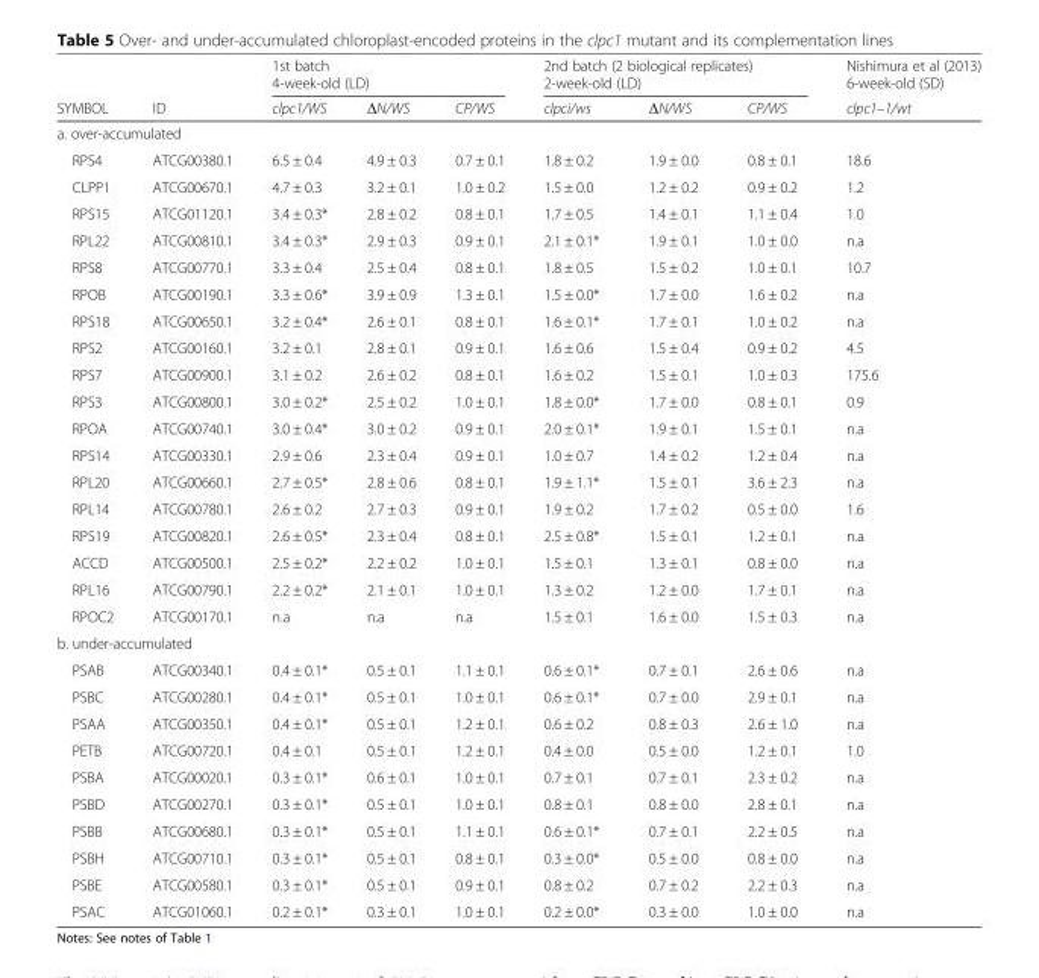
<table><thead><tr><td rowspan="2">SYMBOL</td><td rowspan="2">ID</td><td colspan="3">1st batch 4-week-old (LD)</td><td colspan="3">2nd batch (2 biological replicates) 2-week-old (LD)</td><td rowspan="2">Nishimura et al (2013) 6-week-old (SD) clpc1–1/wt</td></tr><tr><td>clpc1/WS</td><td>ΔN/WS</td><td>CP/WS</td><td>clpci/ws</td><td>ΔN/WS</td><td>CP/WS</td></tr></thead><tbody><tr><td colspan="9">a. over-accumulated</td></tr><tr><td>RPS4</td><td>ATCG00380.1</td><td>6.5 ± 0.4</td><td>4.9 ± 0.3</td><td>0.7 ± 0.1</td><td>1.8 ± 0.2</td><td>1.9 ± 0.0</td><td>0.8 ± 0.1</td><td>18.6</td></tr><tr><td>CLPP1</td><td>ATCG00670.1</td><td>4.7 ± 0.3</td><td>3.2 ± 0.1</td><td>1.0 ± 0.2</td><td>1.5 ± 0.0</td><td>1.2 ± 0.2</td><td>0.9 ± 0.2</td><td>1.2</td></tr><tr><td>RPS15</td><td>ATCG01120.1</td><td>3.4 ± 0.3*</td><td>2.8 ± 0.2</td><td>0.8 ± 0.1</td><td>1.7 ± 0.5</td><td>1.4 ± 0.1</td><td>1.1 ± 0.4</td><td>1.0</td></tr><tr><td>RPL22</td><td>ATCG00810.1</td><td>3.4 ± 0.3*</td><td>2.9 ± 0.3</td><td>0.9 ± 0.1</td><td>2.1 ± 0.1*</td><td>1.9 ± 0.1</td><td>1.0 ± 0.0</td><td>n.a</td></tr><tr><td>RPS8</td><td>ATCG00770.1</td><td>3.3 ± 0.4</td><td>2.5 ± 0.4</td><td>0.8 ± 0.1</td><td>1.8 ± 0.5</td><td>1.5 ± 0.2</td><td>1.0 ± 0.1</td><td>10.7</td></tr><tr><td>RPOB</td><td>ATCG00190.1</td><td>3.3 ± 0.6*</td><td>3.9 ± 0.9</td><td>1.3 ± 0.1</td><td>1.5 ± 0.0*</td><td>1.7 ± 0.0</td><td>1.6 ± 0.2</td><td>n.a</td></tr><tr><td>RPS18</td><td>ATCG00650.1</td><td>3.2 ± 0.4*</td><td>2.6 ± 0.1</td><td>0.8 ± 0.1</td><td>1.6 ± 0.1*</td><td>1.7 ± 0.1</td><td>1.0 ± 0.2</td><td>n.a</td></tr><tr><td>RPS2</td><td>ATCG00160.1</td><td>3.2 ± 0.1</td><td>2.8 ± 0.1</td><td>0.9 ± 0.1</td><td>1.6 ± 0.6</td><td>1.5 ± 0.4</td><td>0.9 ± 0.2</td><td>4.5</td></tr><tr><td>RPS7</td><td>ATCG00900.1</td><td>3.1 ± 0.2</td><td>2.6 ± 0.2</td><td>0.8 ± 0.1</td><td>1.6 ± 0.2</td><td>1.5 ± 0.1</td><td>1.0 ± 0.3</td><td>175.6</td></tr><tr><td>RPS3</td><td>ATCG00800.1</td><td>3.0 ± 0.2*</td><td>2.5 ± 0.2</td><td>1.0 ± 0.1</td><td>1.8 ± 0.0*</td><td>1.7 ± 0.0</td><td>0.8 ± 0.1</td><td>0.9</td></tr><tr><td>RPOA</td><td>ATCG00740.1</td><td>3.0 ± 0.4*</td><td>3.0 ± 0.2</td><td>0.9 ± 0.1</td><td>2.0 ± 0.1*</td><td>1.9 ± 0.1</td><td>1.5 ± 0.1</td><td>n.a</td></tr><tr><td>RPS14</td><td>ATCG00330.1</td><td>2.9 ± 0.6</td><td>2.3 ± 0.4</td><td>0.9 ± 0.1</td><td>1.0 ± 0.7</td><td>1.4 ± 0.2</td><td>1.2 ± 0.4</td><td>n.a</td></tr><tr><td>RPL20</td><td>ATCG00660.1</td><td>2.7 ± 0.5*</td><td>2.8 ± 0.6</td><td>0.8 ± 0.1</td><td>1.9 ± 1.1*</td><td>1.5 ± 0.1</td><td>3.6 ± 2.3</td><td>n.a</td></tr><tr><td>RPL14</td><td>ATCG00780.1</td><td>2.6 ± 0.2</td><td>2.7 ± 0.3</td><td>0.9 ± 0.1</td><td>1.9 ± 0.2</td><td>1.7 ± 0.2</td><td>0.5 ± 0.0</td><td>1.6</td></tr><tr><td>RPS19</td><td>ATCG00820.1</td><td>2.6 ± 0.5*</td><td>2.3 ± 0.4</td><td>0.8 ± 0.1</td><td>2.5 ± 0.8*</td><td>1.5 ± 0.1</td><td>1.2 ± 0.1</td><td>n.a</td></tr><tr><td>ACCD</td><td>ATCG00500.1</td><td>2.5 ± 0.2*</td><td>2.2 ± 0.2</td><td>1.0 ± 0.1</td><td>1.5 ± 0.1</td><td>1.3 ± 0.1</td><td>0.8 ± 0.0</td><td>n.a</td></tr><tr><td>RPL16</td><td>ATCG00790.1</td><td>2.2 ± 0.2*</td><td>2.1 ± 0.1</td><td>1.0 ± 0.1</td><td>1.3 ± 0.2</td><td>1.2 ± 0.0</td><td>1.7 ± 0.1</td><td>n.a</td></tr><tr><td>RPOC2</td><td>ATCG00170.1</td><td>n.a</td><td>n.a</td><td>n.a</td><td>1.5 ± 0.1</td><td>1.6 ± 0.0</td><td>1.5 ± 0.3</td><td>n.a</td></tr><tr><td colspan="9">b. under-accumulated</td></tr><tr><td>PSAB</td><td>ATCG00340.1</td><td>0.4 ± 0.1*</td><td>0.5 ± 0.1</td><td>1.1 ± 0.1</td><td>0.6 ± 0.1*</td><td>0.7 ± 0.1</td><td>2.6 ± 0.6</td><td>n.a</td></tr><tr><td>PSBC</td><td>ATCG00280.1</td><td>0.4 ± 0.1*</td><td>0.5 ± 0.1</td><td>1.0 ± 0.1</td><td>0.6 ± 0.1*</td><td>0.7 ± 0.0</td><td>2.9 ± 0.1</td><td>n.a</td></tr><tr><td>PSAA</td><td>ATCG00350.1</td><td>0.4 ± 0.1*</td><td>0.5 ± 0.1</td><td>1.2 ± 0.1</td><td>0.6 ± 0.2</td><td>0.8 ± 0.3</td><td>2.6 ± 1.0</td><td>n.a</td></tr><tr><td>PETB</td><td>ATCG00720.1</td><td>0.4 ± 0.1</td><td>0.5 ± 0.1</td><td>1.2 ± 0.1</td><td>0.4 ± 0.0</td><td>0.5 ± 0.0</td><td>1.2 ± 0.1</td><td>1.0</td></tr><tr><td>PSBA</td><td>ATCG00020.1</td><td>0.3 ± 0.1*</td><td>0.6 ± 0.1</td><td>1.0 ± 0.1</td><td>0.7 ± 0.1</td><td>0.7 ± 0.1</td><td>2.3 ± 0.2</td><td>n.a</td></tr><tr><td>PSBD</td><td>ATCG00270.1</td><td>0.3 ± 0.1*</td><td>0.5 ± 0.1</td><td>1.0 ± 0.1</td><td>0.8 ± 0.1</td><td>0.8 ± 0.0</td><td>2.8 ± 0.1</td><td>n.a</td></tr><tr><td>PSBB</td><td>ATCG00680.1</td><td>0.3 ± 0.1*</td><td>0.5 ± 0.1</td><td>1.1 ± 0.1</td><td>0.6 ± 0.1*</td><td>0.7 ± 0.1</td><td>2.2 ± 0.5</td><td>n.a</td></tr><tr><td>PSBH</td><td>ATCG00710.1</td><td>0.3 ± 0.1*</td><td>0.5 ± 0.1</td><td>0.8 ± 0.1</td><td>0.3 ± 0.0*</td><td>0.5 ± 0.0</td><td>0.8 ± 0.0</td><td>n.a</td></tr><tr><td>PSBE</td><td>ATCG00580.1</td><td>0.3 ± 0.1*</td><td>0.5 ± 0.1</td><td>0.9 ± 0.1</td><td>0.8 ± 0.2</td><td>0.7 ± 0.2</td><td>2.2 ± 0.3</td><td>n.a</td></tr><tr><td>PSAC</td><td>ATCG01060.1</td><td>0.2 ± 0.1*</td><td>0.3 ± 0.1</td><td>1.0 ± 0.1</td><td>0.2 ± 0.0*</td><td>0.3 ± 0.0</td><td>1.0 ± 0.0</td><td>n.a</td></tr></tbody></table>